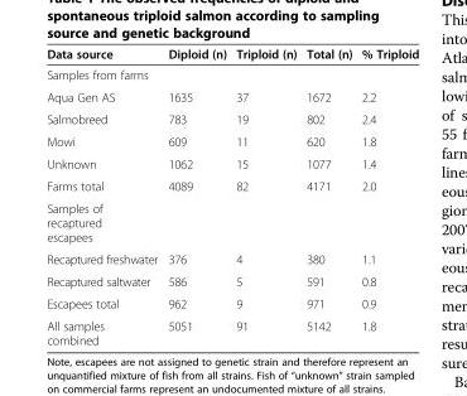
<table><thead><tr><td>Data source</td><td>Diploid (n)</td><td>Triploid (n)</td><td>Total (n)</td><td>% Triploid</td></tr></thead><tbody><tr><td colspan="5">Samples from farms</td></tr><tr><td>Aqua Gen AS</td><td>1635</td><td>37</td><td>1672</td><td>2.2</td></tr><tr><td>Salmobreed</td><td>783</td><td>19</td><td>802</td><td>2.4</td></tr><tr><td>Mowi</td><td>609</td><td>11</td><td>620</td><td>1.8</td></tr><tr><td>Unknown</td><td>1062</td><td>15</td><td>1077</td><td>1.4</td></tr><tr><td>Farms total</td><td>4089</td><td>82</td><td>4171</td><td>2.0</td></tr><tr><td colspan="5">Samples of recaptured escapees</td></tr><tr><td>Recaptured freshwater</td><td>376</td><td>4</td><td>380</td><td>1.1</td></tr><tr><td>Recaptured saltwater</td><td>586</td><td>5</td><td>591</td><td>0.8</td></tr><tr><td>Escapees total</td><td>962</td><td>9</td><td>971</td><td>0.9</td></tr><tr><td>All samples combined</td><td>5051</td><td>91</td><td>5142</td><td>1.8</td></tr></tbody></table>